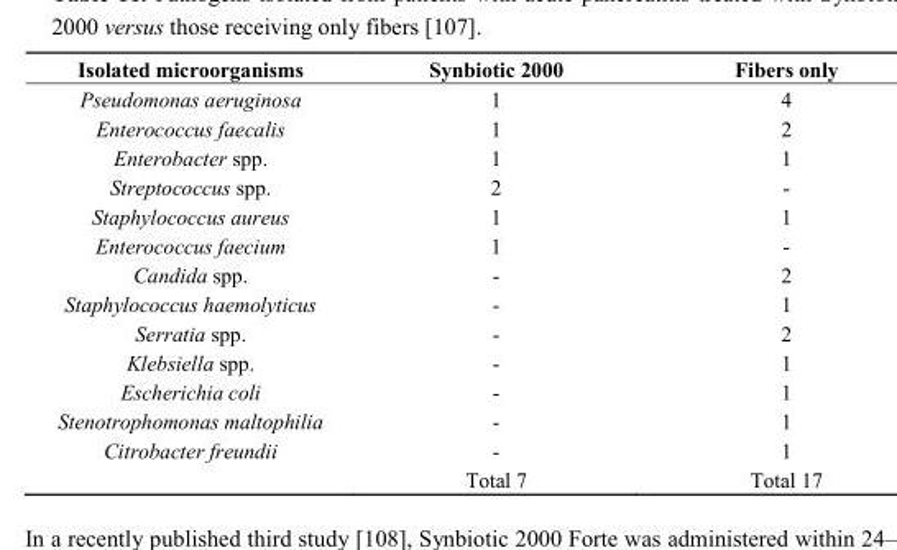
<table><thead><tr><td>Isolated microorganisms</td><td>Synbiotic 2000</td><td>Fibers only</td></tr></thead><tbody><tr><td>Pseudomonas aeruginosa</td><td>1</td><td>4</td></tr><tr><td>Enterococcus faecalis</td><td>1</td><td>2</td></tr><tr><td>Enterobacter spp.</td><td>1</td><td>1</td></tr><tr><td>Streptococcus spp.</td><td>2</td><td>-</td></tr><tr><td>Staphylococcus aureus</td><td>1</td><td>1</td></tr><tr><td>Enterococcus faecium</td><td>1</td><td>-</td></tr><tr><td>Candida spp.</td><td>-</td><td>2</td></tr><tr><td>Staphylococcus haemolyticus</td><td>-</td><td>1</td></tr><tr><td>Serratia spp.</td><td>-</td><td>2</td></tr><tr><td>Klebsiella spp.</td><td>-</td><td>1</td></tr><tr><td>Escherichia coli</td><td>-</td><td>1</td></tr><tr><td>Stenotrophomonas maltophilia</td><td>-</td><td>1</td></tr><tr><td rowspan="2">Citrobacter freundii</td><td>-</td><td>1</td></tr><tr><td>Total 7</td><td>Total 17</td></tr></tbody></table>